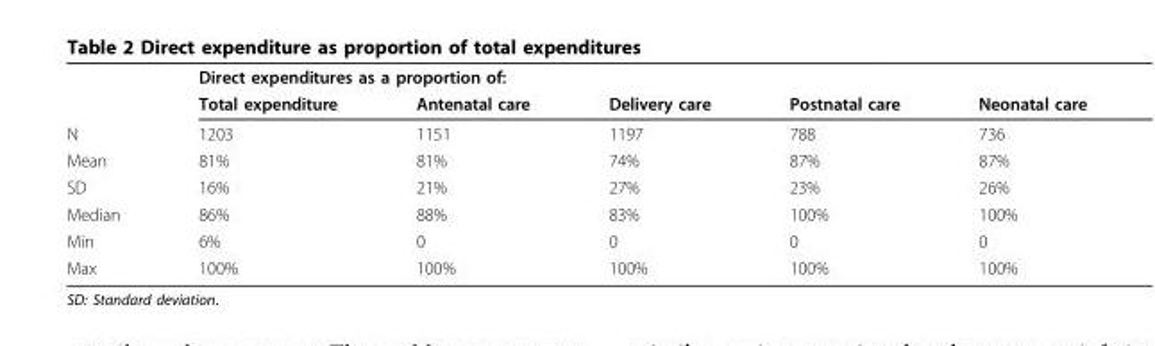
<table><thead><tr><td rowspan="2"></td><td colspan="5">Direct expenditures as a proportion of:</td></tr><tr><td>Total expenditure</td><td>Antenatal care</td><td>Delivery care</td><td>Postnatal care</td><td>Neonatal care</td></tr></thead><tbody><tr><td>N</td><td>1203</td><td>1151</td><td>1197</td><td>788</td><td>736</td></tr><tr><td>Mean</td><td>81%</td><td>81%</td><td>74%</td><td>87%</td><td>87%</td></tr><tr><td>SD</td><td>16%</td><td>21%</td><td>27%</td><td>23%</td><td>26%</td></tr><tr><td>Median</td><td>86%</td><td>88%</td><td>83%</td><td>100%</td><td>100%</td></tr><tr><td>Min</td><td>6%</td><td>0</td><td>0</td><td>0</td><td>0</td></tr><tr><td>Max</td><td>100%</td><td>100%</td><td>100%</td><td>100%</td><td>100%</td></tr></tbody></table>